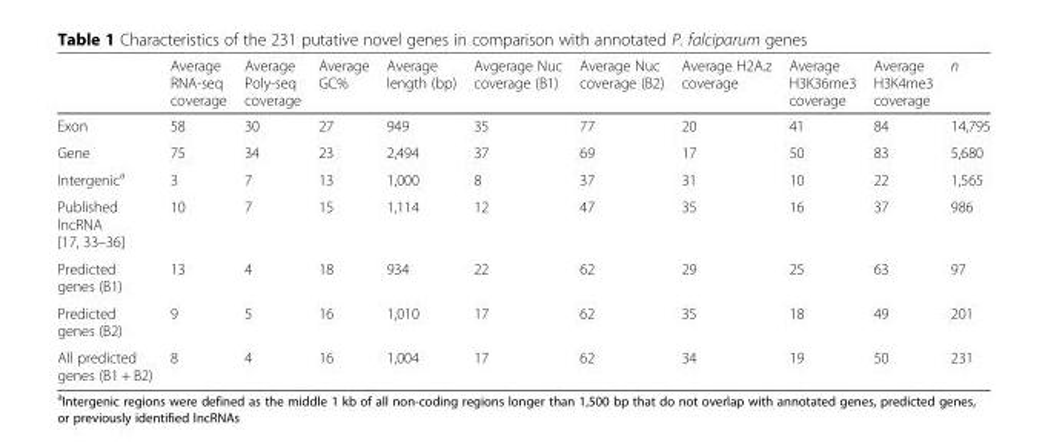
<table><thead><tr><td></td><td>Average RNA-seq coverage</td><td>Average Poly-seq coverage</td><td>Average GC%</td><td>Average length (bp)</td><td>Avgerage Nuc coverage (B1)</td><td>Average Nuc coverage (B2)</td><td>Average H2A.z coverage</td><td>Average H3K36me3 coverage</td><td>Average H3K4me3 coverage</td><td>n</td></tr></thead><tbody><tr><td>Exon</td><td>58</td><td>30</td><td>27</td><td>949</td><td>35</td><td>77</td><td>20</td><td>41</td><td>84</td><td>14,795</td></tr><tr><td>Gene</td><td>75</td><td>34</td><td>23</td><td>2,494</td><td>37</td><td>69</td><td>17</td><td>50</td><td>83</td><td>5,680</td></tr><tr><td>Intergenic<sup>a</sup></td><td>3</td><td>7</td><td>13</td><td>1,000</td><td>8</td><td>37</td><td>31</td><td>10</td><td>22</td><td>1,565</td></tr><tr><td>Published lncRNA [17, 33–36]</td><td>10</td><td>7</td><td>15</td><td>1,114</td><td>12</td><td>47</td><td>35</td><td>16</td><td>37</td><td>986</td></tr><tr><td>Predicted genes (B1)</td><td>13</td><td>4</td><td>18</td><td>934</td><td>22</td><td>62</td><td>29</td><td>25</td><td>63</td><td>97</td></tr><tr><td>Predicted genes (B2)</td><td>9</td><td>5</td><td>16</td><td>1,010</td><td>17</td><td>62</td><td>35</td><td>18</td><td>49</td><td>201</td></tr><tr><td>All predicted genes (B1 + B2)</td><td>8</td><td>4</td><td>16</td><td>1,004</td><td>17</td><td>62</td><td>34</td><td>19</td><td>50</td><td>231</td></tr></tbody></table>